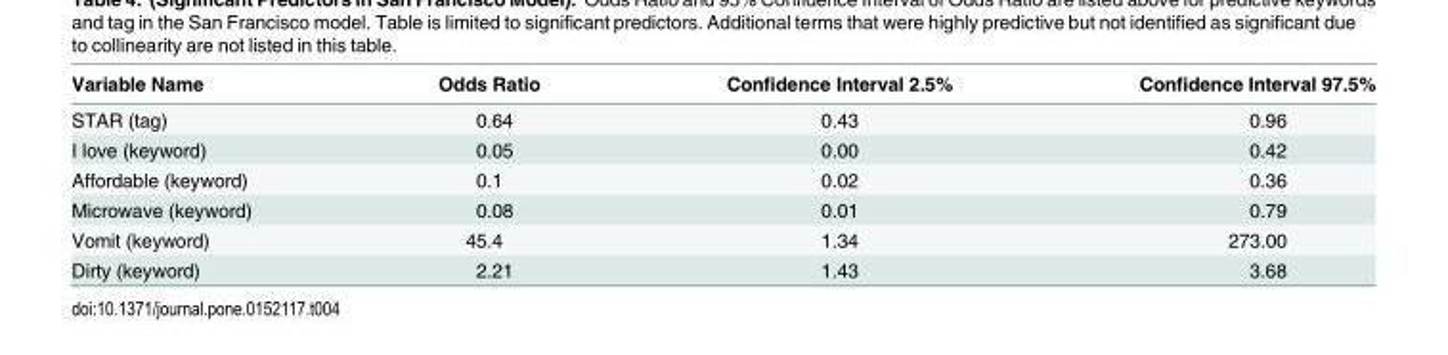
<table><thead><tr><td>Variable Name</td><td>Odds Ratio</td><td>Confidence Interval 2.5%</td><td>Confidence Interval 97.5%</td></tr></thead><tbody><tr><td>STAR (tag)</td><td>0.64</td><td>0.43</td><td>0.96</td></tr><tr><td>I love (keyword)</td><td>0.05</td><td>0.00</td><td>0.42</td></tr><tr><td>Affordable (keyword)</td><td>0.1</td><td>0.02</td><td>0.36</td></tr><tr><td>Microwave (keyword)</td><td>0.08</td><td>0.01</td><td>0.79</td></tr><tr><td>Vomit (keyword)</td><td>45.4</td><td>1.34</td><td>273.00</td></tr><tr><td>Dirty (keyword)</td><td>2.21</td><td>1.43</td><td>3.68</td></tr></tbody></table>